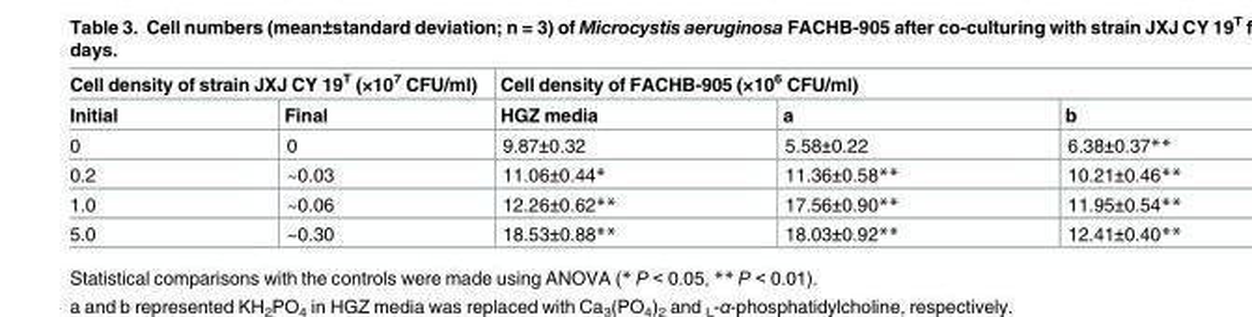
<table><thead><tr><td colspan="2">Cell density of strain JXJ CY 19<sup>T</sup> (×10<sup>7</sup> CFU/ml)</td><td colspan="3">Cell density of FACHB-905 (×10<sup>6</sup> CFU/ml)</td></tr><tr><td>Initial</td><td>Final</td><td>HGZ media</td><td>a</td><td>b</td></tr></thead><tbody><tr><td>0</td><td>0</td><td>9.87±0.32</td><td>5.58±0.22</td><td>6.38±0.37**</td></tr><tr><td>0.2</td><td>~0.03</td><td>11.06±0.44*</td><td>11.36±0.58**</td><td>10.21±0.46**</td></tr><tr><td>1.0</td><td>~0.06</td><td>12.26±0.62**</td><td>17.56±0.90**</td><td>11.95±0.54**</td></tr><tr><td>5.0</td><td>~0.30</td><td>18.53±0.88**</td><td>18.03±0.92**</td><td>12.41±0.40**</td></tr></tbody></table>